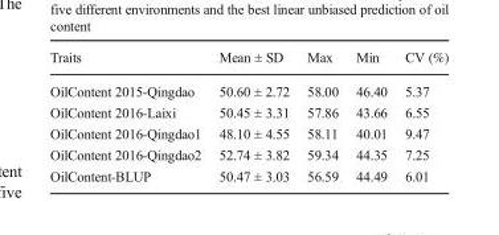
<table><thead><tr><td>Traits</td><td>Mean ± SD</td><td>Max</td><td>Min</td><td>CV (%)</td></tr></thead><tbody><tr><td>OilContent 2015-Qingdao</td><td>50.60 ± 2.72</td><td>58.00</td><td>46.40</td><td>5.37</td></tr><tr><td>OilContent 2016-Laixi</td><td>50.45 ± 3.31</td><td>57.86</td><td>43.66</td><td>6.55</td></tr><tr><td>OilContent 2016-Qingdao1</td><td>48.10 ± 4.55</td><td>58.11</td><td>40.01</td><td>9.47</td></tr><tr><td>OilContent 2016-Qingdao2</td><td>52.74 ± 3.82</td><td>59.34</td><td>44.35</td><td>7.25</td></tr><tr><td>OilContent-BLUP</td><td>50.47 ± 3.03</td><td>56.59</td><td>44.49</td><td>6.01</td></tr></tbody></table>